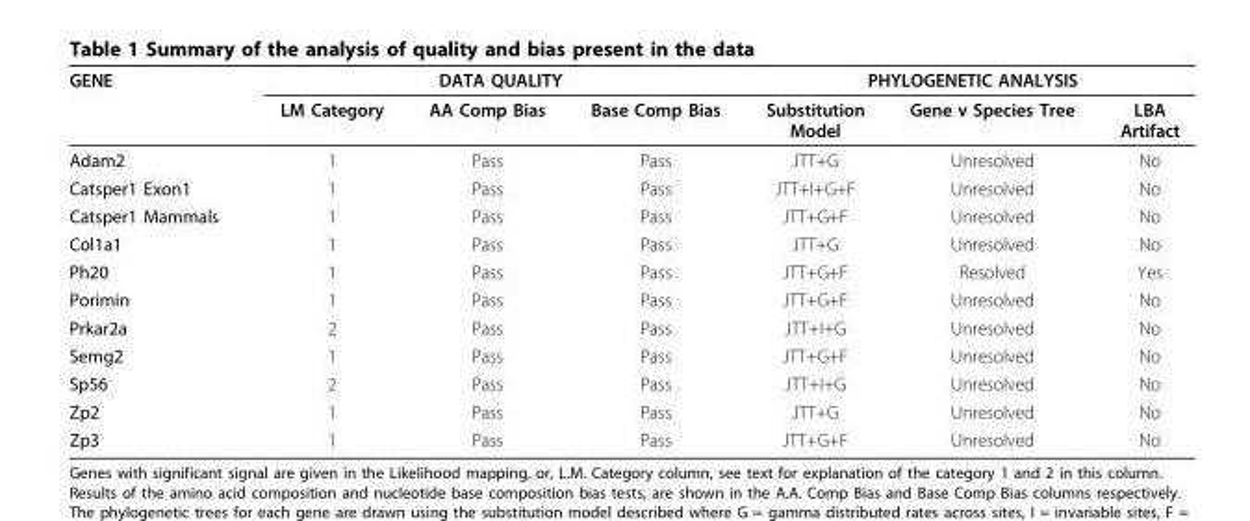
<table><thead><tr><td rowspan="2">GENE</td><td colspan="3">DATA QUALITY</td><td colspan="3">PHYLOGENETIC ANALYSIS</td></tr><tr><td>LM Category</td><td>AA Comp Bias</td><td>Base Comp Bias</td><td>Substitution Model</td><td>Gene v Species Tree</td><td>LBA Artifact</td></tr></thead><tbody><tr><td>Adam2</td><td>1</td><td>Pass</td><td>Pass</td><td>JTT+G</td><td>Unresolved</td><td>No</td></tr><tr><td>Catsper1 Exon1</td><td>1</td><td>Pass</td><td>Pass</td><td>JTT+I+G+F</td><td>Unresolved</td><td>No</td></tr><tr><td>Catsper1 Mammals</td><td>1</td><td>Pass</td><td>Pass</td><td>JTT+G+F</td><td>Unresolved</td><td>No</td></tr><tr><td>Col1a1</td><td>1</td><td>Pass</td><td>Pass</td><td>JTT+G</td><td>Unresolved</td><td>No</td></tr><tr><td>Ph20</td><td>1</td><td>Pass</td><td>Pass</td><td>JTT+G+F</td><td>Resolved</td><td>Yes</td></tr><tr><td>Porimin</td><td>1</td><td>Pass</td><td>Pass</td><td>JTT+G+F</td><td>Unresolved</td><td>No</td></tr><tr><td>Prkar2a</td><td>2</td><td>Pass</td><td>Pass</td><td>JTT+I+G</td><td>Unresolved</td><td>No</td></tr><tr><td>Semg2</td><td>1</td><td>Pass</td><td>Pass</td><td>JTT+G+F</td><td>Unresolved</td><td>No</td></tr><tr><td>Sp56</td><td>2</td><td>Pass</td><td>Pass</td><td>JTT+I+G</td><td>Unresolved</td><td>No</td></tr><tr><td>Zp2</td><td>1</td><td>Pass</td><td>Pass</td><td>JTT+G</td><td>Unresolved</td><td>No</td></tr><tr><td>Zp3</td><td>1</td><td>Pass</td><td>Pass</td><td>JTT+G+F</td><td>Unresolved</td><td>No</td></tr></tbody></table>